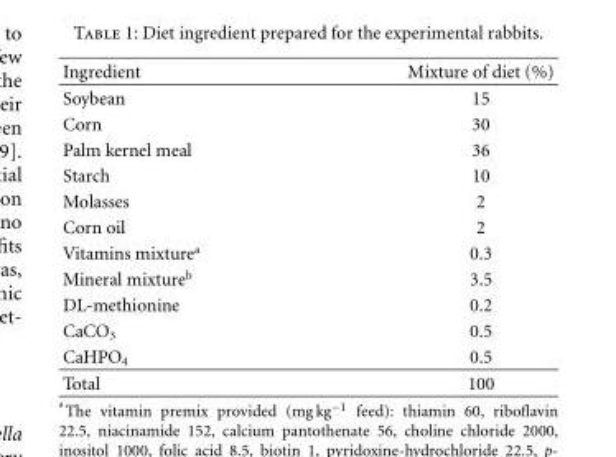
<table><thead><tr><td>Ingredient</td><td>Mixture of diet (%)</td></tr></thead><tbody><tr><td>Soybean</td><td>15</td></tr><tr><td>Corn</td><td>30</td></tr><tr><td>Palm kernel meal</td><td>36</td></tr><tr><td>Starch</td><td>10</td></tr><tr><td>Molasses</td><td>2</td></tr><tr><td>Corn oil</td><td>2</td></tr><tr><td>Vitamins mixture<sup>a</sup></td><td>0.3</td></tr><tr><td>Mineral mixture<sup>b</sup></td><td>3.5</td></tr><tr><td>DL-methionine</td><td>0.2</td></tr><tr><td>CaCO<sub>3</sub></td><td>0.5</td></tr><tr><td>CaHPO<sub>4</sub></td><td>0.5</td></tr><tr><td>Total</td><td>100</td></tr></tbody></table>